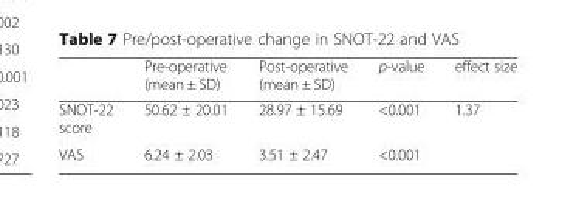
<table><thead><tr><td></td><td>Pre-operative (mean ± SD)</td><td>Post-operative (mean ± SD)</td><td>p-value</td><td>effect size</td></tr></thead><tbody><tr><td>SNOT-22 score</td><td>50.62 ± 20.01</td><td>28.97 ± 15.69</td><td>&lt;0.001</td><td>1.37</td></tr><tr><td>VAS</td><td>6.24 ± 2.03</td><td>3.51 ± 2.47</td><td>&lt;0.001</td><td></td></tr></tbody></table>